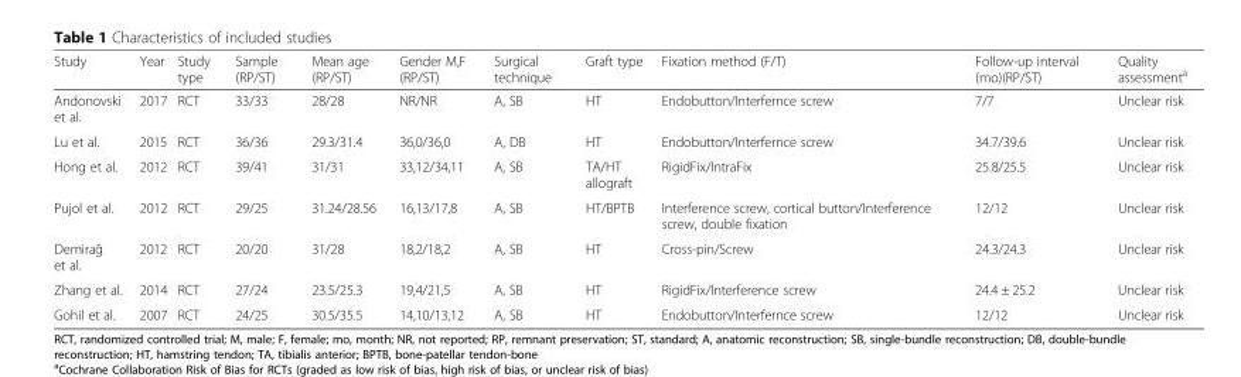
<table><thead><tr><td>Study</td><td>Year</td><td>Study type</td><td>Sample (RP/ST)</td><td>Mean age (RP/ST)</td><td>Gender M,F (RP/ST)</td><td>Surgical technique</td><td>Graft type</td><td>Fixation method (F/T)</td><td>Follow-up interval (mo)(RP/ST)</td><td>Quality assessment<sup>a</sup></td></tr></thead><tbody><tr><td>Andonovski et al.</td><td>2017</td><td>RCT</td><td>33/33</td><td>28/28</td><td>NR/NR</td><td>A, SB</td><td>HT</td><td>Endobutton/Interfernce screw</td><td>7/7</td><td>Unclear risk</td></tr><tr><td>Lu et al.</td><td>2015</td><td>RCT</td><td>36/36</td><td>29.3/31.4</td><td>36,0/36,0</td><td>A, DB</td><td>HT</td><td>Endobutton/Interfernce screw</td><td>34.7/39.6</td><td>Unclear risk</td></tr><tr><td>Hong et al.</td><td>2012</td><td>RCT</td><td>39/41</td><td>31/31</td><td>33,12/34,11</td><td>A, SB</td><td>TA/HT allograft</td><td>RigidFix/IntraFix</td><td>25.8/25.5</td><td>Unclear risk</td></tr><tr><td>Pujol et al.</td><td>2012</td><td>RCT</td><td>29/25</td><td>31.24/28.56</td><td>16,13/17,8</td><td>A, SB</td><td>HT/BPTB</td><td>Interference screw, cortical button/Interference screw, double fixation</td><td>12/12</td><td>Unclear risk</td></tr><tr><td>Demirağ et al.</td><td>2012</td><td>RCT</td><td>20/20</td><td>31/28</td><td>18,2/18,2</td><td>A, SB</td><td>HT</td><td>Cross-pin/Screw</td><td>24.3/24.3</td><td>Unclear risk</td></tr><tr><td>Zhang et al.</td><td>2014</td><td>RCT</td><td>27/24</td><td>23.5/25.3</td><td>19,4/21,5</td><td>A, SB</td><td>HT</td><td>RigidFix/Interference screw</td><td>24.4 ± 25.2</td><td>Unclear risk</td></tr><tr><td>Gohil et al.</td><td>2007</td><td>RCT</td><td>24/25</td><td>30.5/35.5</td><td>14,10/13,12</td><td>A, SB</td><td>HT</td><td>Endobutton/Interfernce screw</td><td>12/12</td><td>Unclear risk</td></tr></tbody></table>